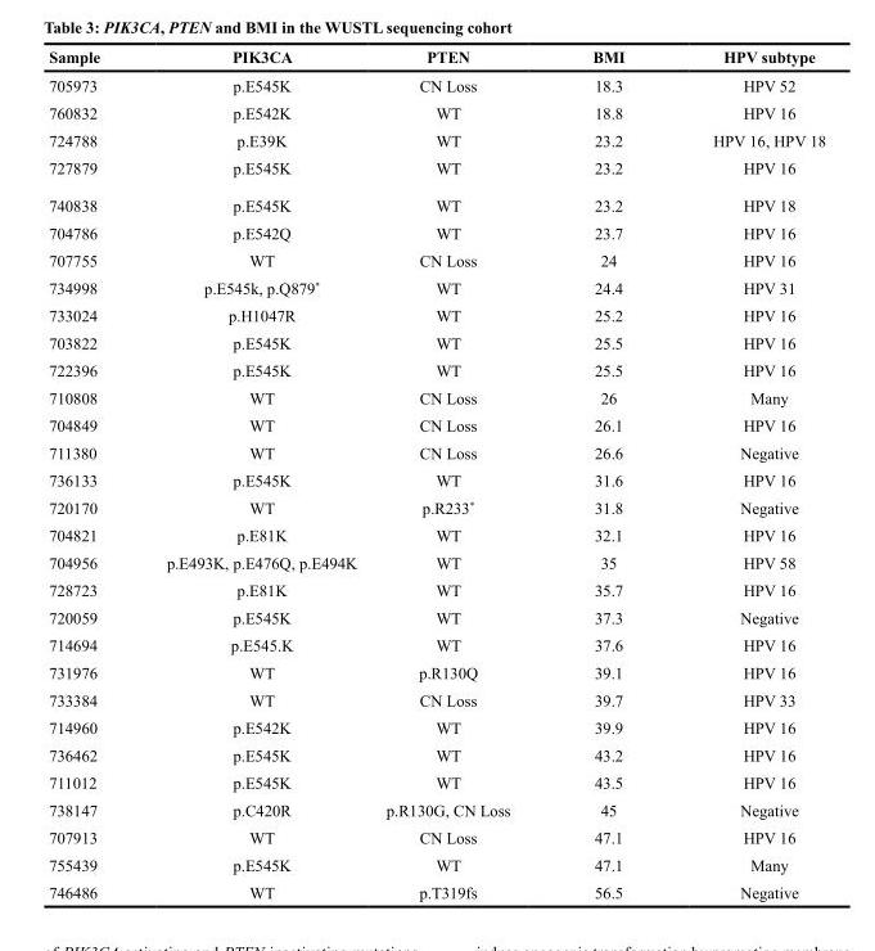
<table><thead><tr><td>Sample</td><td>PIK3CA</td><td>PTEN</td><td>BMI</td><td>HPV subtype</td></tr></thead><tbody><tr><td>705973</td><td>p.E545K</td><td>CN Loss</td><td>18.3</td><td>HPV 52</td></tr><tr><td>760832</td><td>p.E542K</td><td>WT</td><td>18.8</td><td>HPV 16</td></tr><tr><td>724788</td><td>p.E39K</td><td>WT</td><td>23.2</td><td>HPV 16, HPV 18</td></tr><tr><td>727879</td><td>p.E545K</td><td>WT</td><td>23.2</td><td>HPV 16</td></tr><tr><td>740838</td><td>p.E545K</td><td>WT</td><td>23.2</td><td>HPV 18</td></tr><tr><td>704786</td><td>p.E542Q</td><td>WT</td><td>23.7</td><td>HPV 16</td></tr><tr><td>707755</td><td>WT</td><td>CN Loss</td><td>24</td><td>HPV 16</td></tr><tr><td>734998</td><td>p.E545k, p.Q879*</td><td>WT</td><td>24.4</td><td>HPV 31</td></tr><tr><td>733024</td><td>p.H1047R</td><td>WT</td><td>25.2</td><td>HPV 16</td></tr><tr><td>703822</td><td>p.E545K</td><td>WT</td><td>25.5</td><td>HPV 16</td></tr><tr><td>722396</td><td>p.E545K</td><td>WT</td><td>25.5</td><td>HPV 16</td></tr><tr><td>710808</td><td>WT</td><td>CN Loss</td><td>26</td><td>Many</td></tr><tr><td>704849</td><td>WT</td><td>CN Loss</td><td>26.1</td><td>HPV 16</td></tr><tr><td>711380</td><td>WT</td><td>CN Loss</td><td>26.6</td><td>Negative</td></tr><tr><td>736133</td><td>p.E545K</td><td>WT</td><td>31.6</td><td>HPV 16</td></tr><tr><td>720170</td><td>WT</td><td>p.R233*</td><td>31.8</td><td>Negative</td></tr><tr><td>704821</td><td>p.E81K</td><td>WT</td><td>32.1</td><td>HPV 16</td></tr><tr><td>704956</td><td>p.E493K, p.E476Q, p.E494K</td><td>WT</td><td>35</td><td>HPV 58</td></tr><tr><td>728723</td><td>p.E81K</td><td>WT</td><td>35.7</td><td>HPV 16</td></tr><tr><td>720059</td><td>p.E545K</td><td>WT</td><td>37.3</td><td>Negative</td></tr><tr><td>714694</td><td>p.E545.K</td><td>WT</td><td>37.6</td><td>HPV 16</td></tr><tr><td>731976</td><td>WT</td><td>p.R130Q</td><td>39.1</td><td>HPV 16</td></tr><tr><td>733384</td><td>WT</td><td>CN Loss</td><td>39.7</td><td>HPV 33</td></tr><tr><td>714960</td><td>p.E542K</td><td>WT</td><td>39.9</td><td>HPV 16</td></tr><tr><td>736462</td><td>p.E545K</td><td>WT</td><td>43.2</td><td>HPV 16</td></tr><tr><td>711012</td><td>p.E545K</td><td>WT</td><td>43.5</td><td>HPV 16</td></tr><tr><td>738147</td><td>p.C420R</td><td>p.R130G, CN Loss</td><td>45</td><td>Negative</td></tr><tr><td>707913</td><td>WT</td><td>CN Loss</td><td>47.1</td><td>HPV 16</td></tr><tr><td>755439</td><td>p.E545K</td><td>WT</td><td>47.1</td><td>Many</td></tr><tr><td>746486</td><td>WT</td><td>p.T319fs</td><td>56.5</td><td>Negative</td></tr></tbody></table>